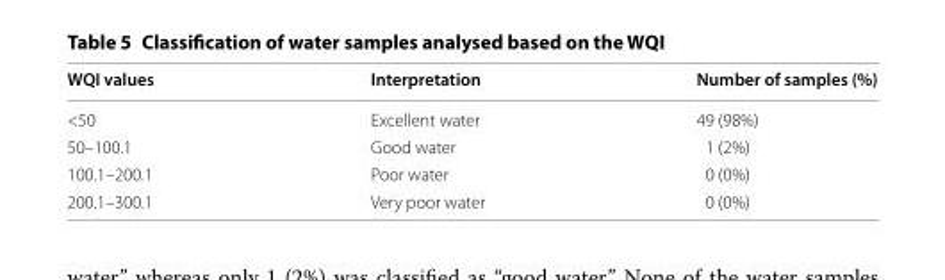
<table><thead><tr><td>WQI values</td><td>Interpretation</td><td>Number of samples (%)</td></tr></thead><tbody><tr><td>&lt;50</td><td>Excellent water</td><td>49 (98%)</td></tr><tr><td>50–100.1</td><td>Good water</td><td>1 (2%)</td></tr><tr><td>100.1–200.1</td><td>Poor water</td><td>0 (0%)</td></tr><tr><td>200.1–300.1</td><td>Very poor water</td><td>0 (0%)</td></tr></tbody></table>